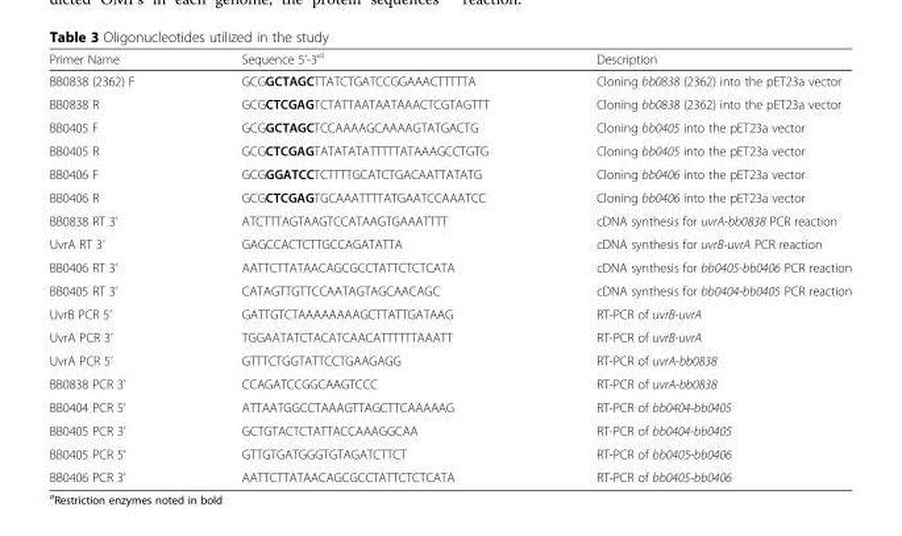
<table><thead><tr><td>Primer Name</td><td>Sequence 5’-3’<sup>a</sup></td><td>Description</td></tr></thead><tbody><tr><td>BB0838 (2362) F</td><td>GCGGCTAGCTTATCTGATCCGGAAACTTTTTA</td><td>Cloning bb0838 (2362) into the pET23a vector</td></tr><tr><td>BB0838 R</td><td>GCGCTCGAGTCTATTAATAATAAACTCGTAGTTT</td><td>Cloning bb0838 (2362) into the pET23a vector</td></tr><tr><td>BB0405 F</td><td>GCGGCTAGCTCCAAAAGCAAAAGTATGACTG</td><td>Cloning bb0405 into the pET23a vector</td></tr><tr><td>BB0405 R</td><td>GCGCTCGAGTATATATATTTTTATAAAGCCTGTG</td><td>Cloning bb0405 into the pET23a vector</td></tr><tr><td>BB0406 F</td><td>GCGGGATCCTCTTTTGCATCTGACAATTATATG</td><td>Cloning bb0406 into the pET23a vector</td></tr><tr><td>BB0406 R</td><td>GCGCTCGAGTGCAAATTTTATGAATCCAAATCC</td><td>Cloning bb0406 into the pET23a vector</td></tr><tr><td>BB0838 RT 3’</td><td>ATCTTTAGTAAGTCCATAAGTGAAATTTT</td><td>cDNA synthesis for uvrA-bb0838 PCR reaction</td></tr><tr><td>UvrA RT 3’</td><td>GAGCCACTCTTGCCAGATATTA</td><td>cDNA synthesis for uvrB-uvrA PCR reaction</td></tr><tr><td>BB0406 RT 3’</td><td>AATTCTTATAACAGCGCCTATTCTCTCATA</td><td>cDNA synthesis for bb0405-bb0406 PCR reaction</td></tr><tr><td>BB0405 RT 3’</td><td>CATAGTTGTTCCAATAGTAGCAACAGC</td><td>cDNA synthesis for bb0404-bb0405 PCR reaction</td></tr><tr><td>UvrB PCR 5’</td><td>GATTGTCTAAAAAAAAGCTTATTGATAAG</td><td>RT-PCR of uvrB-uvrA</td></tr><tr><td>UvrA PCR 3’</td><td>TGGAATATCTACATCAACATTTTTTAAATT</td><td>RT-PCR of uvrB-uvrA</td></tr><tr><td>UvrA PCR 5’</td><td>GTTTCTGGTATTCCTGAAGAGG</td><td>RT-PCR of uvrA-bb0838</td></tr><tr><td>BB0838 PCR 3’</td><td>CCAGATCCGGCAAGTCCC</td><td>RT-PCR of uvrA-bb0838</td></tr><tr><td>BB0404 PCR 5’</td><td>ATTAATGGCCTAAAGTTAGCTTCAAAAAG</td><td>RT-PCR of bb0404-bb0405</td></tr><tr><td>BB0405 PCR 3’</td><td>GCTGTACTCTATTACCAAAGGCAA</td><td>RT-PCR of bb0404-bb0405</td></tr><tr><td>BB0405 PCR 5’</td><td>GTTGTGATGGGTGTAGATCTTCT</td><td>RT-PCR of bb0405-bb0406</td></tr><tr><td>BB0406 PCR 3’</td><td>AATTCTTATAACAGCGCCTATTCTCTCATA</td><td>RT-PCR of bb0405-bb0406</td></tr></tbody></table>